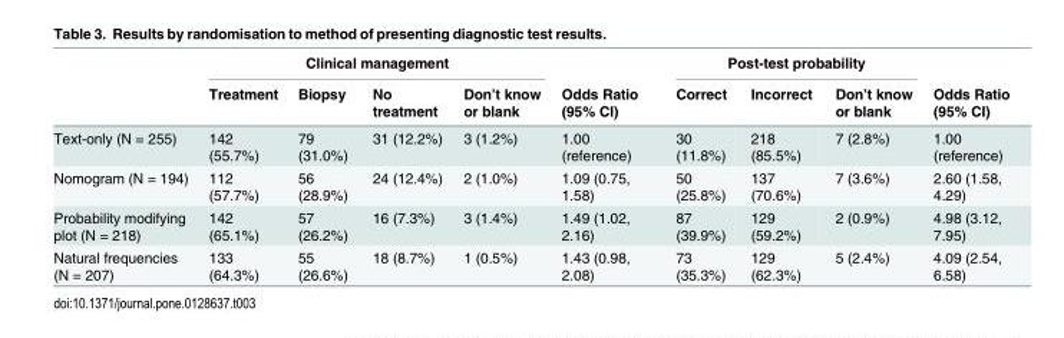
<table><thead><tr><td rowspan="2"></td><td colspan="4">Clinical management</td><td rowspan="2">Odds Ratio (95% CI)</td><td colspan="3">Post-test probability</td><td rowspan="2">Odds Ratio (95% CI)</td></tr><tr><td>Treatment</td><td>Biopsy</td><td>No treatment</td><td>Don’t know or blank</td><td>Correct</td><td>Incorrect</td><td>Don’t know or blank</td></tr></thead><tbody><tr><td>Text-only (N = 255)</td><td>142 (55.7%)</td><td>79 (31.0%)</td><td>31 (12.2%)</td><td>3 (1.2%)</td><td>1.00 (reference)</td><td>30 (11.8%)</td><td>218 (85.5%)</td><td>7 (2.8%)</td><td>1.00 (reference)</td></tr><tr><td>Nomogram (N = 194)</td><td>112 (57.7%)</td><td>56 (28.9%)</td><td>24 (12.4%)</td><td>2 (1.0%)</td><td>1.09 (0.75, 1.58)</td><td>50 (25.8%)</td><td>137 (70.6%)</td><td>7 (3.6%)</td><td>2.60 (1.58, 4.29)</td></tr><tr><td>Probability modifying plot (N = 218)</td><td>142 (65.1%)</td><td>57 (26.2%)</td><td>16 (7.3%)</td><td>3 (1.4%)</td><td>1.49 (1.02, 2.16)</td><td>87 (39.9%)</td><td>129 (59.2%)</td><td>2 (0.9%)</td><td>4.98 (3.12, 7.95)</td></tr><tr><td>Natural frequencies (N = 207)</td><td>133 (64.3%)</td><td>55 (26.6%)</td><td>18 (8.7%)</td><td>1 (0.5%)</td><td>1.43 (0.98, 2.08)</td><td>73 (35.3%)</td><td>129 (62.3%)</td><td>5 (2.4%)</td><td>4.09 (2.54, 6.58)</td></tr></tbody></table>